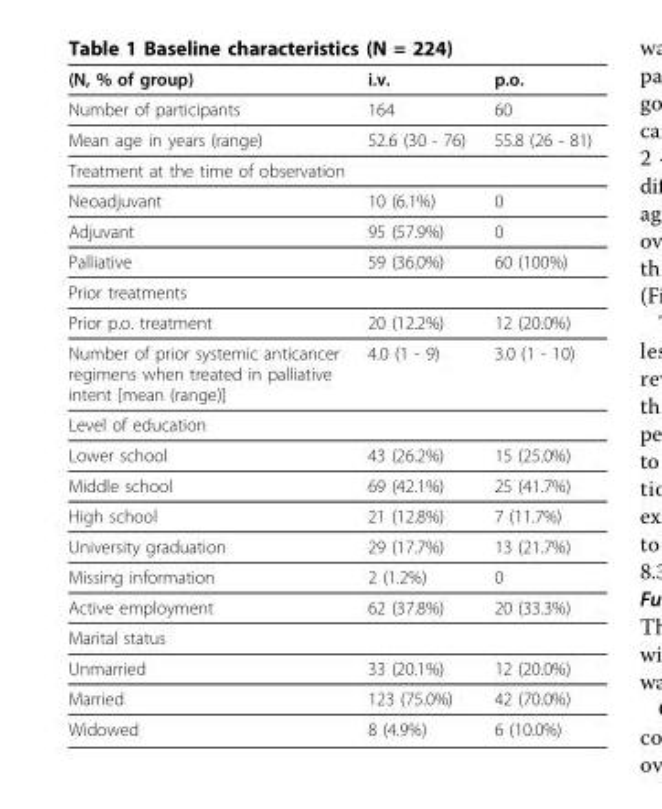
<table><thead><tr><td>(N, % of group)</td><td>i.v.</td><td>p.o.</td></tr></thead><tbody><tr><td>Number of participants</td><td>164</td><td>60</td></tr><tr><td>Mean age in years (range)</td><td>52.6 (30 - 76)</td><td>55.8 (26 - 81)</td></tr><tr><td colspan="3">Treatment at the time of observation</td></tr><tr><td>Neoadjuvant</td><td>10 (6.1%)</td><td>0</td></tr><tr><td>Adjuvant</td><td>95 (57.9%)</td><td>0</td></tr><tr><td>Palliative</td><td>59 (36.0%)</td><td>60 (100%)</td></tr><tr><td colspan="3">Prior treatments</td></tr><tr><td>Prior p.o. treatment</td><td>20 (12.2%)</td><td>12 (20.0%)</td></tr><tr><td>Number of prior systemic anticancer regimens when treated in palliative intent [mean (range)]</td><td>4.0 (1 - 9)</td><td>3.0 (1 - 10)</td></tr><tr><td colspan="3">Level of education</td></tr><tr><td>Lower school</td><td>43 (26.2%)</td><td>15 (25.0%)</td></tr><tr><td>Middle school</td><td>69 (42.1%)</td><td>25 (41.7%)</td></tr><tr><td>High school</td><td>21 (12.8%)</td><td>7 (11.7%)</td></tr><tr><td>University graduation</td><td>29 (17.7%)</td><td>13 (21.7%)</td></tr><tr><td>Missing information</td><td>2 (1.2%)</td><td>0</td></tr><tr><td>Active employment</td><td>62 (37.8%)</td><td>20 (33.3%)</td></tr><tr><td colspan="3">Marital status</td></tr><tr><td>Unmarried</td><td>33 (20.1%)</td><td>12 (20.0%)</td></tr><tr><td>Married</td><td>123 (75.0%)</td><td>42 (70.0%)</td></tr><tr><td>Widowed</td><td>8 (4.9%)</td><td>6 (10.0%)</td></tr></tbody></table>